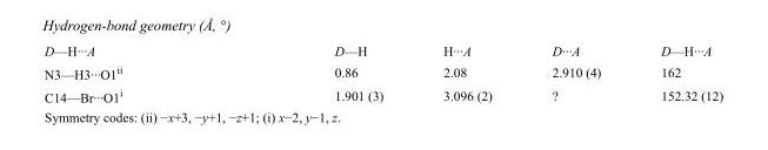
<table><tbody><tr><td>D—H···A</td><td>D—H</td><td>H···A</td><td>D···A</td><td>D—H···A</td></tr><tr><td>N3—H3···O1<sup>ii</sup></td><td>0.86</td><td>2.08</td><td>2.910 (4)</td><td>162</td></tr><tr><td>C14—Br···O1<sup>i</sup></td><td>1.901 (3)</td><td>3.096 (2)</td><td>?</td><td>152.32 (12)</td></tr></tbody></table>